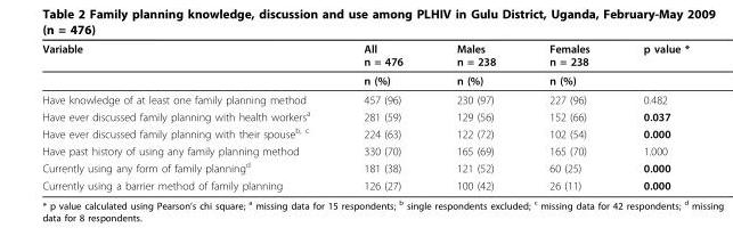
<table><thead><tr><td>Variable</td><td>All n = 476</td><td>Males n = 238</td><td>Females n = 238</td><td>p value *</td></tr></thead><tbody><tr><td></td><td>n (%)</td><td>n (%)</td><td>n (%)</td><td></td></tr><tr><td>Have knowledge of at least one family planning method</td><td>457 (96)</td><td>230 (97)</td><td>227 (96)</td><td>0.482</td></tr><tr><td>Have ever discussed family planning with health workers<sup>a</sup></td><td>281 (59)</td><td>129 (56)</td><td>152 (66)</td><td>0.037</td></tr><tr><td>Have ever discussed family planning with their spouse<sup>b, c</sup></td><td>224 (63)</td><td>122 (72)</td><td>102 (54)</td><td>0.000</td></tr><tr><td>Have past history of using any family planning method</td><td>330 (70)</td><td>165 (69)</td><td>165 (70)</td><td>1.000</td></tr><tr><td>Currently using any form of family planning<sup>d</sup></td><td>181 (38)</td><td>121 (52)</td><td>60 (25)</td><td>0.000</td></tr><tr><td>Currently using a barrier method of family planning</td><td>126 (27)</td><td>100 (42)</td><td>26 (11)</td><td>0.000</td></tr></tbody></table>